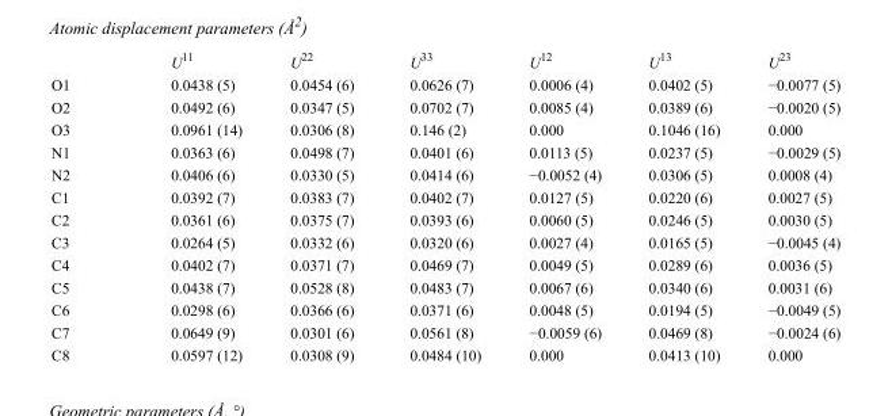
<table><thead><tr><td></td><td>U<sup>11</sup></td><td>U<sup>22</sup></td><td>U<sup>33</sup></td><td>U<sup>12</sup></td><td>U<sup>13</sup></td><td>U<sup>23</sup></td></tr></thead><tbody><tr><td>O1</td><td>0.0438 (5)</td><td>0.0454 (6)</td><td>0.0626 (7)</td><td>0.0006 (4)</td><td>0.0402 (5)</td><td>−0.0077 (5)</td></tr><tr><td>O2</td><td>0.0492 (6)</td><td>0.0347 (5)</td><td>0.0702 (7)</td><td>0.0085 (4)</td><td>0.0389 (6)</td><td>−0.0020 (5)</td></tr><tr><td>O3</td><td>0.0961 (14)</td><td>0.0306 (8)</td><td>0.146 (2)</td><td>0.000</td><td>0.1046 (16)</td><td>0.000</td></tr><tr><td>N1</td><td>0.0363 (6)</td><td>0.0498 (7)</td><td>0.0401 (6)</td><td>0.0113 (5)</td><td>0.0237 (5)</td><td>−0.0029 (5)</td></tr><tr><td>N2</td><td>0.0406 (6)</td><td>0.0330 (5)</td><td>0.0414 (6)</td><td>−0.0052 (4)</td><td>0.0306 (5)</td><td>0.0008 (4)</td></tr><tr><td>C1</td><td>0.0392 (7)</td><td>0.0383 (7)</td><td>0.0402 (7)</td><td>0.0127 (5)</td><td>0.0220 (6)</td><td>0.0027 (5)</td></tr><tr><td>C2</td><td>0.0361 (6)</td><td>0.0375 (7)</td><td>0.0393 (6)</td><td>0.0060 (5)</td><td>0.0246 (5)</td><td>0.0030 (5)</td></tr><tr><td>C3</td><td>0.0264 (5)</td><td>0.0332 (6)</td><td>0.0320 (6)</td><td>0.0027 (4)</td><td>0.0165 (5)</td><td>−0.0045 (4)</td></tr><tr><td>C4</td><td>0.0402 (7)</td><td>0.0371 (7)</td><td>0.0469 (7)</td><td>0.0049 (5)</td><td>0.0289 (6)</td><td>0.0036 (5)</td></tr><tr><td>C5</td><td>0.0438 (7)</td><td>0.0528 (8)</td><td>0.0483 (7)</td><td>0.0067 (6)</td><td>0.0340 (6)</td><td>0.0031 (6)</td></tr><tr><td>C6</td><td>0.0298 (6)</td><td>0.0366 (6)</td><td>0.0371 (6)</td><td>0.0048 (5)</td><td>0.0194 (5)</td><td>−0.0049 (5)</td></tr><tr><td>C7</td><td>0.0649 (9)</td><td>0.0301 (6)</td><td>0.0561 (8)</td><td>−0.0059 (6)</td><td>0.0469 (8)</td><td>−0.0024 (6)</td></tr><tr><td>C8</td><td>0.0597 (12)</td><td>0.0308 (9)</td><td>0.0484 (10)</td><td>0.000</td><td>0.0413 (10)</td><td>0.000</td></tr></tbody></table>